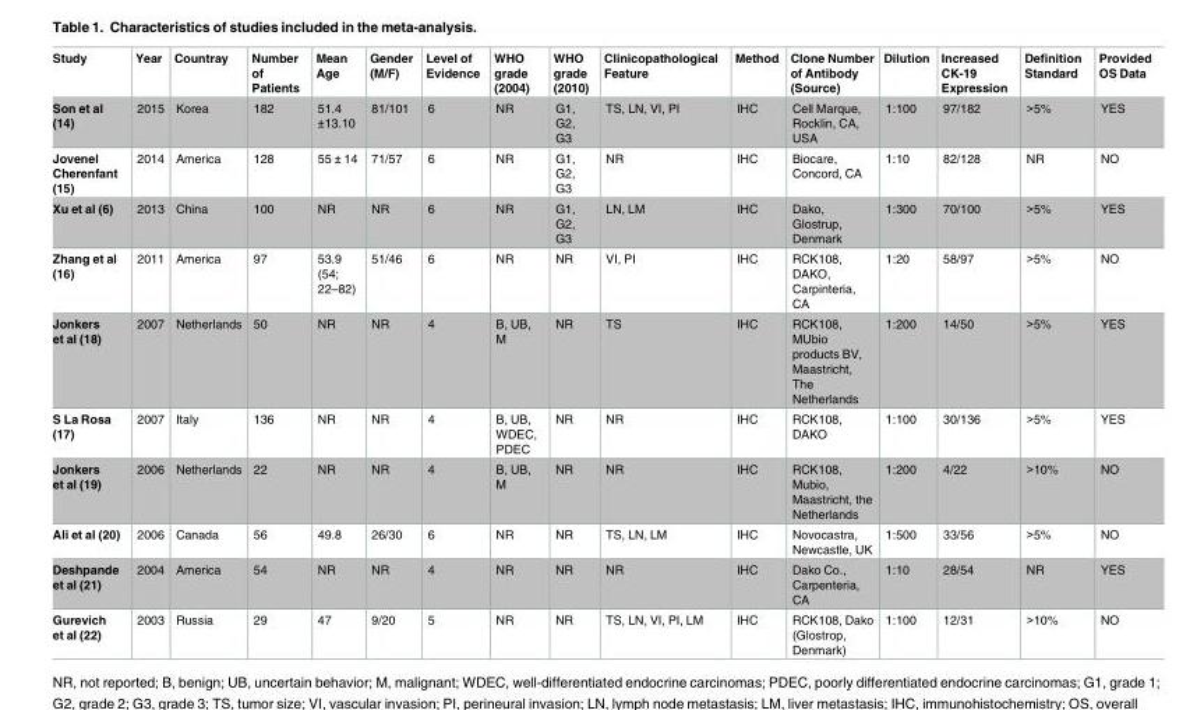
<table><thead><tr><td>Study</td><td>Year</td><td>Countray</td><td>Number of Patients</td><td>Mean Age</td><td>Gender (M/F)</td><td>Level of Evidence</td><td>WHO grade (2004)</td><td>WHO grade (2010)</td><td>Clinicopathological Feature</td><td>Method</td><td>Clone Number of Antibody (Source)</td><td>Dilution</td><td>Increased CK-19 Expression</td><td>Definition Standard</td><td>Provided OS Data</td></tr></thead><tbody><tr><td>Son et al (14)</td><td>2015</td><td>Korea</td><td>182</td><td>51.4 ±13.10</td><td>81/101</td><td>6</td><td>NR</td><td>G1, G2, G3</td><td>TS, LN, VI, PI</td><td>IHC</td><td>Cell Marque, Rocklin, CA, USA</td><td>1:100</td><td>97/182</td><td>&gt;5%</td><td>YES</td></tr><tr><td>Jovenel Cherenfant (15)</td><td>2014</td><td>America</td><td>128</td><td>55 ± 14</td><td>71/57</td><td>6</td><td>NR</td><td>G1, G2, G3</td><td>NR</td><td>IHC</td><td>Biocare, Concord, CA</td><td>1:10</td><td>82/128</td><td>NR</td><td>NO</td></tr><tr><td>Xu et al (6)</td><td>2013</td><td>China</td><td>100</td><td>NR</td><td>NR</td><td>6</td><td>NR</td><td>G1, G2, G3</td><td>LN, LM</td><td>IHC</td><td>Dako, Glostrup, Denmark</td><td>1:300</td><td>70/100</td><td>&gt;5%</td><td>YES</td></tr><tr><td>Zhang et al (16)</td><td>2011</td><td>America</td><td>97</td><td>53.9 (54; 22–82)</td><td>51/46</td><td>6</td><td>NR</td><td>NR</td><td>VI, PI</td><td>IHC</td><td>RCK108, DAKO, Carpinteria, CA</td><td>1:20</td><td>58/97</td><td>&gt;5%</td><td>NO</td></tr><tr><td>Jonkers et al (18)</td><td>2007</td><td>Netherlands</td><td>50</td><td>NR</td><td>NR</td><td>4</td><td>B, UB, M</td><td>NR</td><td>TS</td><td>IHC</td><td>RCK108, MUbio products BV, Maastricht, The Netherlands</td><td>1:200</td><td>14/50</td><td>&gt;5%</td><td>YES</td></tr><tr><td>S La Rosa (17)</td><td>2007</td><td>Italy</td><td>136</td><td>NR</td><td>NR</td><td>4</td><td>B, UB, WDEC, PDEC</td><td>NR</td><td>NR</td><td>IHC</td><td>RCK108, DAKO</td><td>1:100</td><td>30/136</td><td>&gt;5%</td><td>YES</td></tr><tr><td>Jonkers et al (19)</td><td>2006</td><td>Netherlands</td><td>22</td><td>NR</td><td>NR</td><td>4</td><td>B, UB, M</td><td>NR</td><td>NR</td><td>IHC</td><td>RCK108, Mubio, Maastricht, the Netherlands</td><td>1:200</td><td>4/22</td><td>&gt;10%</td><td>NO</td></tr><tr><td>Ali et al (20)</td><td>2006</td><td>Canada</td><td>56</td><td>49.8</td><td>26/30</td><td>6</td><td>NR</td><td>NR</td><td>TS, LN, LM</td><td>IHC</td><td>Novocastra, Newcastle, UK</td><td>1:500</td><td>33/56</td><td>&gt;5%</td><td>NO</td></tr><tr><td>Deshpande et al (21)</td><td>2004</td><td>America</td><td>54</td><td>NR</td><td>NR</td><td>4</td><td>NR</td><td>NR</td><td>NR</td><td>IHC</td><td>Dako Co., Carpenteria, CA</td><td>1:10</td><td>28/54</td><td>NR</td><td>YES</td></tr><tr><td>Gurevich et al (22)</td><td>2003</td><td>Russia</td><td>29</td><td>47</td><td>9/20</td><td>5</td><td>NR</td><td>NR</td><td>TS, LN, VI, PI, LM</td><td>IHC</td><td>RCK108, Dako (Glostrop, Denmark)</td><td>1:100</td><td>12/31</td><td>&gt;10%</td><td>NO</td></tr></tbody></table>